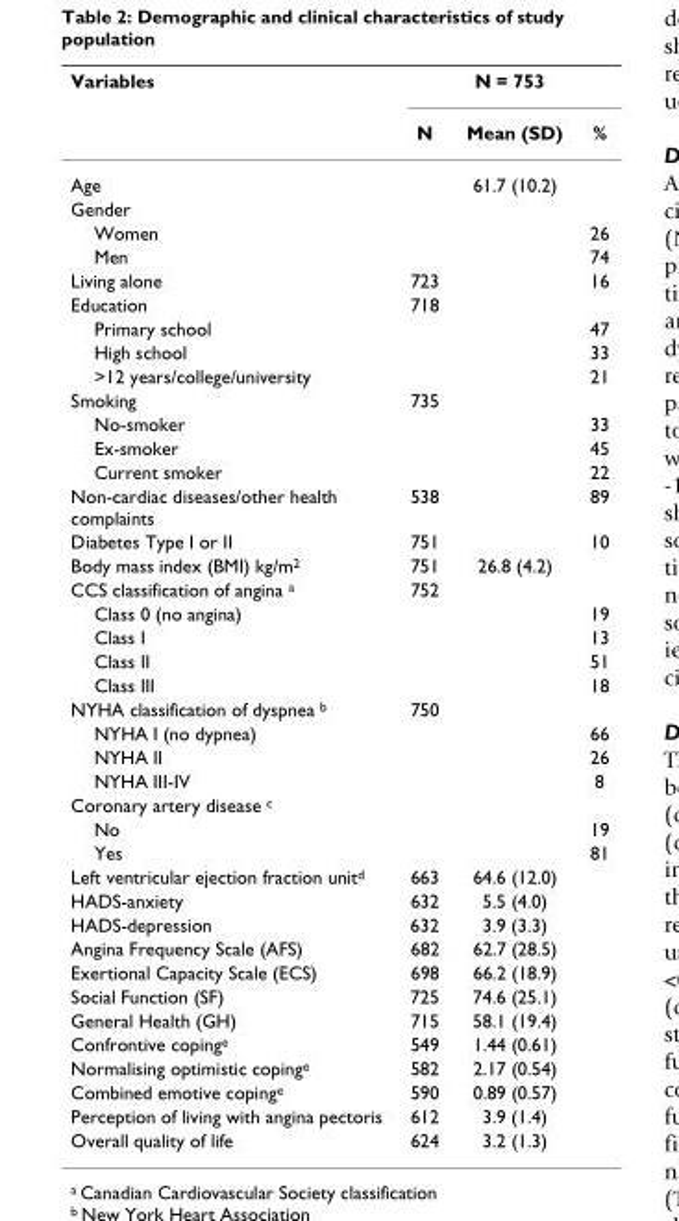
<table><thead><tr><td rowspan="2">Variables</td><td colspan="3">N = 753</td></tr><tr><td>N</td><td>Mean (SD)</td><td>%</td></tr></thead><tbody><tr><td>Age</td><td></td><td>61.7 (10.2)</td><td></td></tr><tr><td colspan="4">Gender</td></tr><tr><td>Women</td><td></td><td></td><td>26</td></tr><tr><td>Men</td><td></td><td></td><td>74</td></tr><tr><td>Living alone</td><td>723</td><td></td><td>16</td></tr><tr><td>Education</td><td>718</td><td></td><td></td></tr><tr><td>Primary school</td><td></td><td></td><td>47</td></tr><tr><td>High school</td><td></td><td></td><td>33</td></tr><tr><td>&gt;12 years/college/university</td><td></td><td></td><td>21</td></tr><tr><td>Smoking</td><td>735</td><td></td><td></td></tr><tr><td>No-smoker</td><td></td><td></td><td>33</td></tr><tr><td>Ex-smoker</td><td></td><td></td><td>45</td></tr><tr><td>Current smoker</td><td></td><td></td><td>22</td></tr><tr><td>Non-cardiac diseases/other health complaints</td><td>538</td><td></td><td>89</td></tr><tr><td>Diabetes Type I or II</td><td>751</td><td></td><td>10</td></tr><tr><td>Body mass index (BMI) kg/m<sup>2</sup></td><td>751</td><td>26.8 (4.2)</td><td></td></tr><tr><td>CCS classification of angina <sup>a</sup></td><td>752</td><td></td><td></td></tr><tr><td>Class 0 (no angina)</td><td></td><td></td><td>19</td></tr><tr><td>Class I</td><td></td><td></td><td>13</td></tr><tr><td>Class II</td><td></td><td></td><td>51</td></tr><tr><td>Class III</td><td></td><td></td><td>18</td></tr><tr><td>NYHA classification of dyspnea <sup>b</sup></td><td>750</td><td></td><td></td></tr><tr><td>NYHA I (no dypnea)</td><td></td><td></td><td>66</td></tr><tr><td>NYHA II</td><td></td><td></td><td>26</td></tr><tr><td>NYHA III-IV</td><td></td><td></td><td>8</td></tr><tr><td colspan="4">Coronary artery disease <sup>c</sup></td></tr><tr><td>No</td><td></td><td></td><td>19</td></tr><tr><td>Yes</td><td></td><td></td><td>81</td></tr><tr><td>Left ventricular ejection fraction unit<sup>d</sup></td><td>663</td><td>64.6 (12.0)</td><td></td></tr><tr><td>HADS-anxiety</td><td>632</td><td>5.5 (4.0)</td><td></td></tr><tr><td>HADS-depression</td><td>632</td><td>3.9 (3.3)</td><td></td></tr><tr><td>Angina Frequency Scale (AFS)</td><td>682</td><td>62.7 (28.5)</td><td></td></tr><tr><td>Exertional Capacity Scale (ECS)</td><td>698</td><td>66.2 (18.9)</td><td></td></tr><tr><td>Social Function (SF)</td><td>725</td><td>74.6 (25.1)</td><td></td></tr><tr><td>General Health (GH)</td><td>715</td><td>58.1 (19.4)</td><td></td></tr><tr><td>Confrontive coping<sup>e</sup></td><td>549</td><td>1.44 (0.61)</td><td></td></tr><tr><td>Normalising optimistic coping<sup>e</sup></td><td>582</td><td>2.17 (0.54)</td><td></td></tr><tr><td>Combined emotive coping<sup>e</sup></td><td>590</td><td>0.89 (0.57)</td><td></td></tr><tr><td>Perception of living with angina pectoris</td><td>612</td><td>3.9 (1.4)</td><td></td></tr><tr><td>Overall quality of life</td><td>624</td><td>3.2 (1.3)</td><td></td></tr></tbody></table>